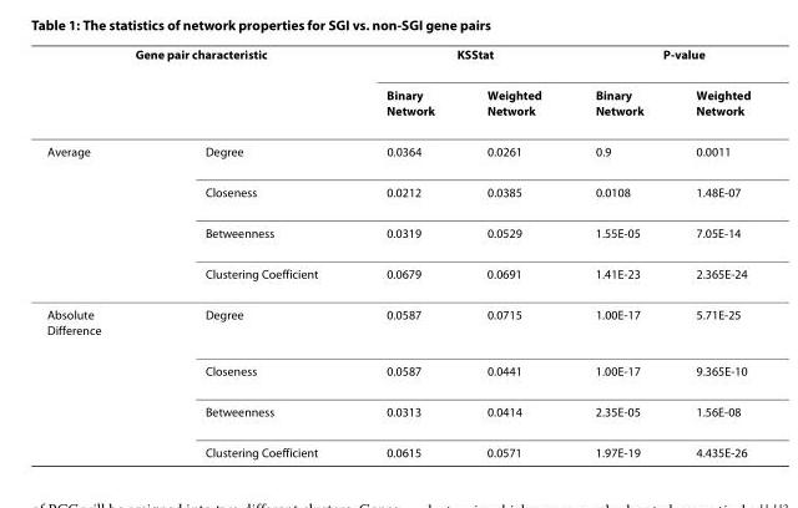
<table><thead><tr><td colspan="2">Gene pair characteristic</td><td colspan="2">KSStat</td><td colspan="2">P-value</td></tr><tr><td></td><td></td><td>Binary Network</td><td>Weighted Network</td><td>Binary Network</td><td>Weighted Network</td></tr></thead><tbody><tr><td rowspan="4">Average</td><td>Degree</td><td>0.0364</td><td>0.0261</td><td>0.9</td><td>0.0011</td></tr><tr><td>Closeness</td><td>0.0212</td><td>0.0385</td><td>0.0108</td><td>1.48E-07</td></tr><tr><td>Betweenness</td><td>0.0319</td><td>0.0529</td><td>1.55E-05</td><td>7.05E-14</td></tr><tr><td>Clustering Coefficient</td><td>0.0679</td><td>0.0691</td><td>1.41E-23</td><td>2.365E-24</td></tr><tr><td rowspan="4">Absolute Difference</td><td>Degree</td><td>0.0587</td><td>0.0715</td><td>1.00E-17</td><td>5.71E-25</td></tr><tr><td>Closeness</td><td>0.0587</td><td>0.0441</td><td>1.00E-17</td><td>9.365E-10</td></tr><tr><td>Betweenness</td><td>0.0313</td><td>0.0414</td><td>2.35E-05</td><td>1.56E-08</td></tr><tr><td>Clustering Coefficient</td><td>0.0615</td><td>0.0571</td><td>1.97E-19</td><td>4.435E-26</td></tr></tbody></table>